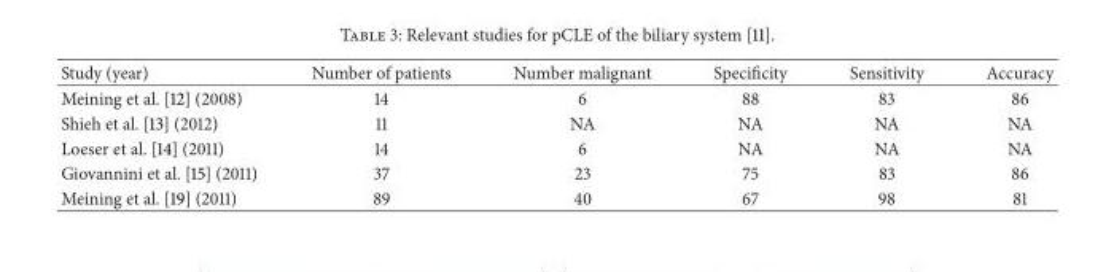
<table><thead><tr><td>Study (year)</td><td>Number of patients</td><td>Number malignant</td><td>Specificity</td><td>Sensitivity</td><td>Accuracy</td></tr></thead><tbody><tr><td>Meining et al. [12] (2008)</td><td>14</td><td>6</td><td>88</td><td>83</td><td>86</td></tr><tr><td>Shieh et al. [13] (2012)</td><td>11</td><td>NA</td><td>NA</td><td>NA</td><td>NA</td></tr><tr><td>Loeser et al. [14] (2011)</td><td>14</td><td>6</td><td>NA</td><td>NA</td><td>NA</td></tr><tr><td>Giovannini et al. [15] (2011)</td><td>37</td><td>23</td><td>75</td><td>83</td><td>86</td></tr><tr><td>Meining et al. [19] (2011)</td><td>89</td><td>40</td><td>67</td><td>98</td><td>81</td></tr></tbody></table>